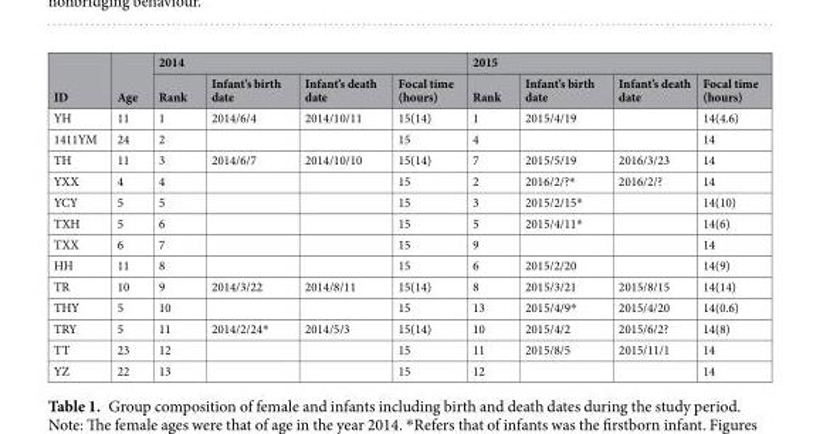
<table><thead><tr><td rowspan="2">ID</td><td rowspan="2">Age</td><td colspan="4">2014</td><td colspan="4">2015</td></tr><tr><td>Rank</td><td>Infant’s birth date</td><td>Infant’s death date</td><td>Focal time (hours)</td><td>Rank</td><td>Infant’s birth date</td><td>Infant’s death date</td><td>Focal time (hours)</td></tr></thead><tbody><tr><td>YH</td><td>11</td><td>1</td><td>2014/6/4</td><td>2014/10/11</td><td>15(14)</td><td>1</td><td>2015/4/19</td><td></td><td>14(4.6)</td></tr><tr><td>1411YM</td><td>24</td><td>2</td><td></td><td></td><td>15</td><td>4</td><td></td><td></td><td>14</td></tr><tr><td>TH</td><td>11</td><td>3</td><td>2014/6/7</td><td>2014/10/10</td><td>15(14)</td><td>7</td><td>2015/5/19</td><td>2016/3/23</td><td>14</td></tr><tr><td>YXX</td><td>4</td><td>4</td><td></td><td></td><td>15</td><td>2</td><td>2016/2/?*</td><td>2016/2/?</td><td>14</td></tr><tr><td>YCY</td><td>5</td><td>5</td><td></td><td></td><td>15</td><td>3</td><td>2015/2/15*</td><td></td><td>14(10)</td></tr><tr><td>TXH</td><td>5</td><td>6</td><td></td><td></td><td>15</td><td>5</td><td>2015/4/11*</td><td></td><td>14(6)</td></tr><tr><td>TXX</td><td>6</td><td>7</td><td></td><td></td><td>15</td><td>9</td><td></td><td></td><td>14</td></tr><tr><td>HH</td><td>11</td><td>8</td><td></td><td></td><td>15</td><td>6</td><td>2015/2/20</td><td></td><td>14(9)</td></tr><tr><td>TR</td><td>10</td><td>9</td><td>2014/3/22</td><td>2014/8/11</td><td>15(14)</td><td>8</td><td>2015/3/21</td><td>2015/8/15</td><td>14(14)</td></tr><tr><td>THY</td><td>5</td><td>10</td><td></td><td></td><td>15</td><td>13</td><td>2015/4/9*</td><td>2015/4/20</td><td>14(0.6)</td></tr><tr><td>TRY</td><td>5</td><td>11</td><td>2014/2/24*</td><td>2014/5/3</td><td>15(14)</td><td>10</td><td>2015/4/2</td><td>2015/6/2?</td><td>14(8)</td></tr><tr><td>TT</td><td>23</td><td>12</td><td></td><td></td><td>15</td><td>11</td><td>2015/8/5</td><td>2015/11/1</td><td>14</td></tr><tr><td>YZ</td><td>22</td><td>13</td><td></td><td></td><td>15</td><td>12</td><td></td><td></td><td>14</td></tr></tbody></table>